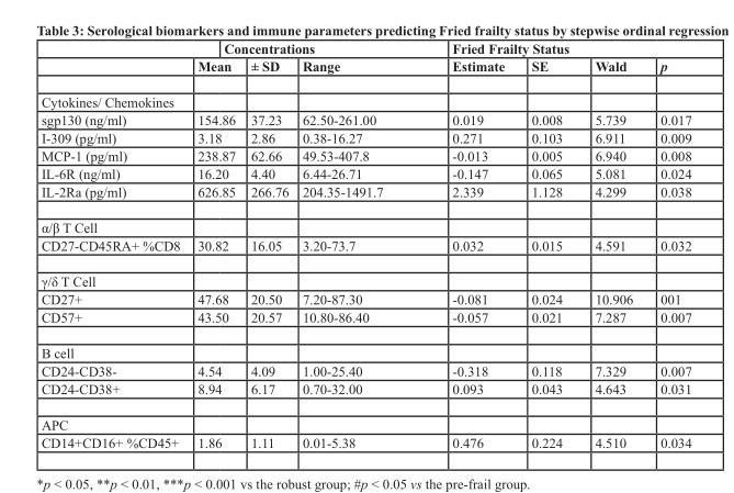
<table><thead><tr><td rowspan="2"></td><td colspan="3">Concentrations</td><td colspan="4">Fried Frailty Status</td></tr><tr><td>Mean</td><td>± SD</td><td>Range</td><td>Estimate</td><td>SE</td><td>Wald</td><td>p</td></tr></thead><tbody><tr><td colspan="8">Cytokines/ Chemokines</td></tr><tr><td>sgp130 (ng/ml)</td><td>154.86</td><td>37.23</td><td>62.50-261.00</td><td>0.019</td><td>0.008</td><td>5.739</td><td>0.017</td></tr><tr><td>I-309 (pg/ml)</td><td>3.18</td><td>2.86</td><td>0.38-16.27</td><td>0.271</td><td>0.103</td><td>6.911</td><td>0.009</td></tr><tr><td>MCP-1 (pg/ml)</td><td>238.87</td><td>62.66</td><td>49.53-407.8</td><td>-0.013</td><td>0.005</td><td>6.940</td><td>0.008</td></tr><tr><td>IL-6R (ng/ml)</td><td>16.20</td><td>4.40</td><td>6.44-26.71</td><td>-0.147</td><td>0.065</td><td>5.081</td><td>0.024</td></tr><tr><td>IL-2Ra (pg/ml)</td><td>626.85</td><td>266.76</td><td>204.35-1491.7</td><td>2.339</td><td>1.128</td><td>4.299</td><td>0.038</td></tr><tr><td colspan="8">α/β T Cell</td></tr><tr><td>CD27-CD45RA+ %CD8</td><td>30.82</td><td>16.05</td><td>3.20-73.7</td><td>0.032</td><td>0.015</td><td>4.591</td><td>0.032</td></tr><tr><td colspan="8">γ/δ T Cell</td></tr><tr><td>CD27+</td><td>47.68</td><td>20.50</td><td>7.20-87.30</td><td>-0.081</td><td>0.024</td><td>10.906</td><td>001</td></tr><tr><td>CD57+</td><td>43.50</td><td>20.57</td><td>10.80-86.40</td><td>-0.057</td><td>0.021</td><td>7.287</td><td>0.007</td></tr><tr><td colspan="8">B cell</td></tr><tr><td>CD24-CD38-</td><td>4.54</td><td>4.09</td><td>1.00-25.40</td><td>-0.318</td><td>0.118</td><td>7.329</td><td>0.007</td></tr><tr><td>CD24-CD38+</td><td>8.94</td><td>6.17</td><td>0.70-32.00</td><td>0.093</td><td>0.043</td><td>4.643</td><td>0.031</td></tr><tr><td colspan="8">APC</td></tr><tr><td>CD14+CD16+ %CD45+</td><td>1.86</td><td>1.11</td><td>0.01-5.38</td><td>0.476</td><td>0.224</td><td>4.510</td><td>0.034</td></tr></tbody></table>